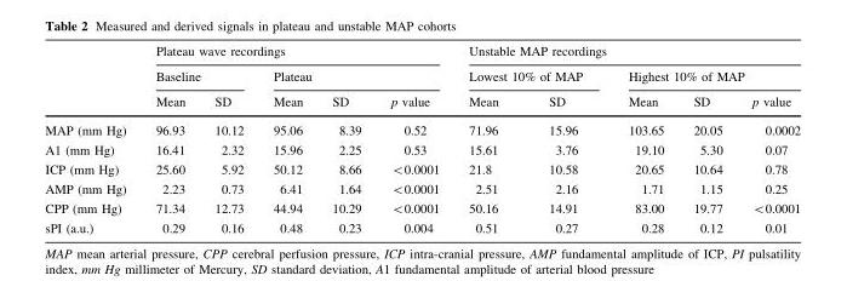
<table><thead><tr><td rowspan="3"></td><td colspan="5">Plateau wave recordings</td><td colspan="5">Unstable MAP recordings</td></tr><tr><td colspan="2">Baseline</td><td colspan="3">Plateau</td><td colspan="2">Lowest 10% of MAP</td><td colspan="3">Highest 10% of MAP</td></tr><tr><td>Mean</td><td>SD</td><td>Mean</td><td>SD</td><td>p value</td><td>Mean</td><td>SD</td><td>Mean</td><td>SD</td><td>p value</td></tr></thead><tbody><tr><td>MAP (mm Hg)</td><td>96.93</td><td>10.12</td><td>95.06</td><td>8.39</td><td>0.52</td><td>71.96</td><td>15.96</td><td>103.65</td><td>20.05</td><td>0.0002</td></tr><tr><td>A1 (mm Hg)</td><td>16.41</td><td>2.32</td><td>15.96</td><td>2.25</td><td>0.53</td><td>15.61</td><td>3.76</td><td>19.10</td><td>5.30</td><td>0.07</td></tr><tr><td>ICP (mm Hg)</td><td>25.60</td><td>5.92</td><td>50.12</td><td>8.66</td><td>&lt;0.0001</td><td>21.8</td><td>10.58</td><td>20.65</td><td>10.64</td><td>0.78</td></tr><tr><td>AMP (mm Hg)</td><td>2.23</td><td>0.73</td><td>6.41</td><td>1.64</td><td>&lt;0.0001</td><td>2.51</td><td>2.16</td><td>1.71</td><td>1.15</td><td>0.25</td></tr><tr><td>CPP (mm Hg)</td><td>71.34</td><td>12.73</td><td>44.94</td><td>10.29</td><td>&lt;0.0001</td><td>50.16</td><td>14.91</td><td>83.00</td><td>19.77</td><td>&lt;0.0001</td></tr><tr><td>sPI (a.u.)</td><td>0.29</td><td>0.16</td><td>0.48</td><td>0.23</td><td>0.004</td><td>0.51</td><td>0.27</td><td>0.28</td><td>0.12</td><td>0.01</td></tr></tbody></table>